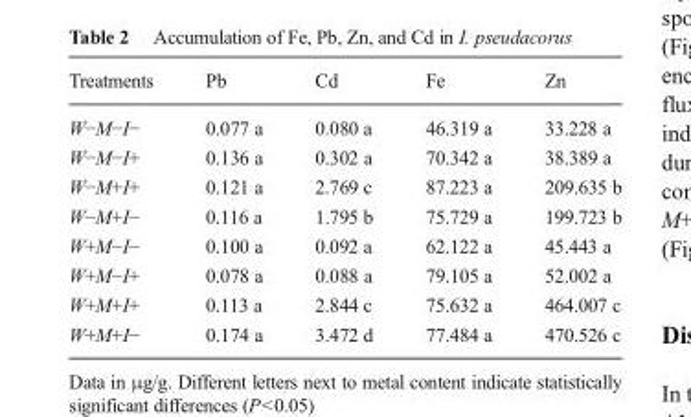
<table><thead><tr><td>Treatments</td><td>Pb</td><td>Cd</td><td>Fe</td><td>Zn</td></tr></thead><tbody><tr><td>W−M−I−</td><td>0.077 a</td><td>0.080 a</td><td>46.319 a</td><td>33.228 a</td></tr><tr><td>W−M−I+</td><td>0.136 a</td><td>0.302 a</td><td>70.342 a</td><td>38.389 a</td></tr><tr><td>W−M+I+</td><td>0.121 a</td><td>2.769 c</td><td>87.223 a</td><td>209.635 b</td></tr><tr><td>W−M+I−</td><td>0.116 a</td><td>1.795 b</td><td>75.729 a</td><td>199.723 b</td></tr><tr><td>W+M−I−</td><td>0.100 a</td><td>0.092 a</td><td>62.122 a</td><td>45.443 a</td></tr><tr><td>W+M−I+</td><td>0.078 a</td><td>0.088 a</td><td>79.105 a</td><td>52.002 a</td></tr><tr><td>W+M+I+</td><td>0.113 a</td><td>2.844 c</td><td>75.632 a</td><td>464.007 c</td></tr><tr><td>W+M+I−</td><td>0.174 a</td><td>3.472 d</td><td>77.484 a</td><td>470.526 c</td></tr></tbody></table>